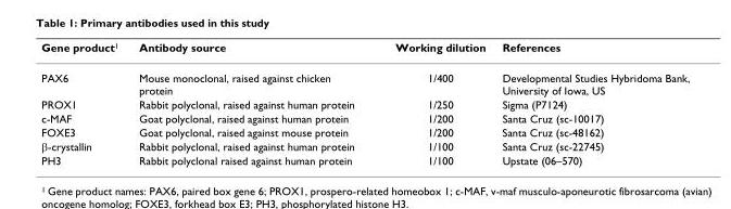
<table><thead><tr><td>Gene product<sup>1</sup></td><td>Antibody source</td><td>Working dilution</td><td>References</td></tr></thead><tbody><tr><td>PAX6</td><td>Mouse monoclonal, raised against chicken protein</td><td>1/400</td><td>Developmental Studies Hybridoma Bank, University of Iowa, US</td></tr><tr><td>PROX1</td><td>Rabbit polyclonal, raised against human protein</td><td>1/250</td><td>Sigma (P7124)</td></tr><tr><td>c-MAF</td><td>Goat polyclonal, raised against human protein</td><td>1/200</td><td>Santa Cruz (sc-10017)</td></tr><tr><td>FOXE3</td><td>Goat polyclonal, raised against mouse protein</td><td>1/200</td><td>Santa Cruz (sc-48162)</td></tr><tr><td>β-crystallin</td><td>Rabbit polyclonal, raised against human protein</td><td>1/100</td><td>Santa Cruz (sc-22745)</td></tr><tr><td>PH3</td><td>Rabbit polyclonal raised against human protein</td><td>1/100</td><td>Upstate (06–570)</td></tr></tbody></table>